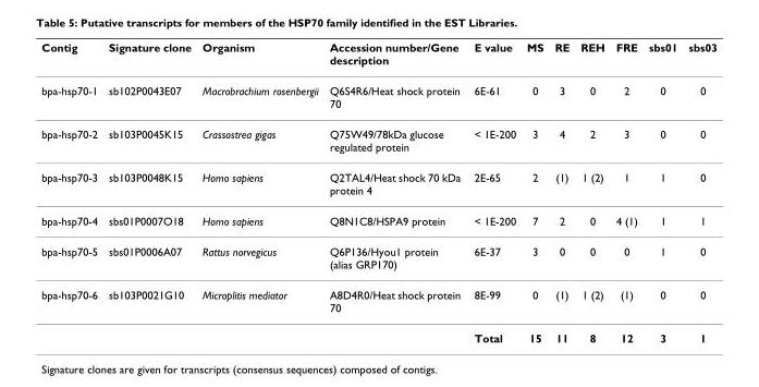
<table><thead><tr><td>Contig</td><td>Signature clone</td><td>Organism</td><td>Accession number/Gene description</td><td>E value</td><td>MS</td><td>RE</td><td>REH</td><td>FRE</td><td>sbs01</td><td>sbs03</td></tr></thead><tbody><tr><td>bpa-hsp70-1</td><td>sb102P0043E07</td><td>Macrobrachium rosenbergii</td><td>Q6S4R6/Heat shock protein 70</td><td>6E-61</td><td>0</td><td>3</td><td>0</td><td>2</td><td>0</td><td>0</td></tr><tr><td>bpa-hsp70-2</td><td>sb103P0045K15</td><td>Crassostrea gigas</td><td>Q75W49/78kDa glucose regulated protein</td><td>&lt; 1E-200</td><td>3</td><td>4</td><td>2</td><td>3</td><td>0</td><td>0</td></tr><tr><td>bpa-hsp70-3</td><td>sb103P0048K15</td><td>Homo sapiens</td><td>Q2TAL4/Heat shock 70 kDa protein 4</td><td>2E-65</td><td>2</td><td>(1)</td><td>1 (2)</td><td>1</td><td>1</td><td>0</td></tr><tr><td>bpa-hsp70-4</td><td>sbs01P0007O18</td><td>Homo sapiens</td><td>Q8N1C8/HSPA9 protein</td><td>&lt; 1E-200</td><td>7</td><td>2</td><td>0</td><td>4 (1)</td><td>1</td><td>1</td></tr><tr><td>bpa-hsp70-5</td><td>sbs01P0006A07</td><td>Rattus norvegicus</td><td>Q6P136/Hyou1 protein (alias GRP170)</td><td>6E-37</td><td>3</td><td>0</td><td>0</td><td>0</td><td>1</td><td>0</td></tr><tr><td rowspan="2">bpa-hsp70-6</td><td>sb103P0021G10</td><td>Microplitis mediator</td><td>A8D4R0/Heat shock protein 70</td><td>8E-99</td><td>0</td><td>(1)</td><td>1 (2)</td><td>(1)</td><td>0</td><td>0</td></tr><tr><td></td><td></td><td></td><td>Total</td><td>15</td><td>11</td><td>8</td><td>12</td><td>3</td><td>1</td></tr></tbody></table>